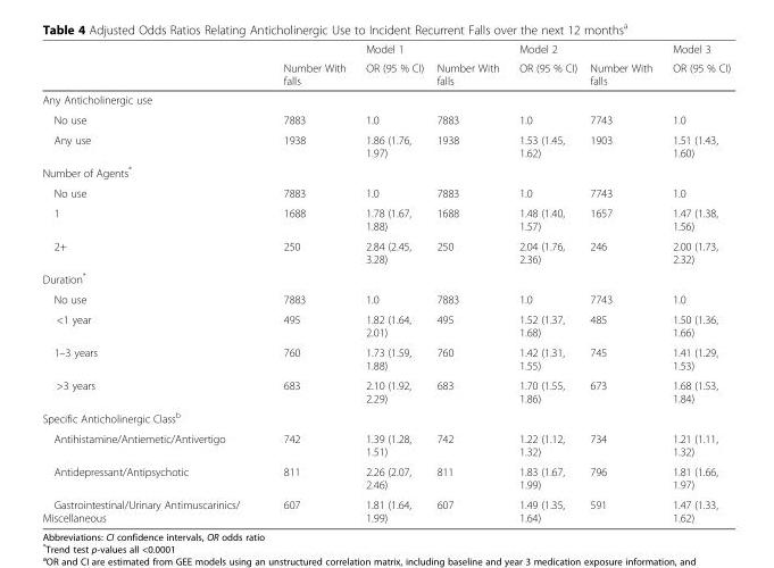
<table><thead><tr><td rowspan="2"></td><td rowspan="2">Number With falls</td><td rowspan="2">Model 1 OR (95 % CI)</td><td rowspan="2">Number With falls</td><td rowspan="2">Model 2 OR (95 % CI)</td><td rowspan="2">Number With falls</td><td rowspan="2">Model 3 OR (95 % CI)</td></tr><tr></tr></thead><tbody><tr><td colspan="7">Any Anticholinergic use</td></tr><tr><td>No use</td><td>7883</td><td>1.0</td><td>7883</td><td>1.0</td><td>7743</td><td>1.0</td></tr><tr><td>Any use</td><td>1938</td><td>1.86 (1.76, 1.97)</td><td>1938</td><td>1.53 (1.45, 1.62)</td><td>1903</td><td>1.51 (1.43, 1.60)</td></tr><tr><td colspan="7">Number of Agents*</td></tr><tr><td>No use</td><td>7883</td><td>1.0</td><td>7883</td><td>1.0</td><td>7743</td><td>1.0</td></tr><tr><td>1</td><td>1688</td><td>1.78 (1.67, 1.88)</td><td>1688</td><td>1.48 (1.40, 1.57)</td><td>1657</td><td>1.47 (1.38, 1.56)</td></tr><tr><td>2+</td><td>250</td><td>2.84 (2.45, 3.28)</td><td>250</td><td>2.04 (1.76, 2.36)</td><td>246</td><td>2.00 (1.73, 2.32)</td></tr><tr><td colspan="7">Duration*</td></tr><tr><td>No use</td><td>7883</td><td>1.0</td><td>7883</td><td>1.0</td><td>7743</td><td>1.0</td></tr><tr><td>&lt;1 year</td><td>495</td><td>1.82 (1.64, 2.01)</td><td>495</td><td>1.52 (1.37, 1.68)</td><td>485</td><td>1.50 (1.36, 1.66)</td></tr><tr><td>1–3 years</td><td>760</td><td>1.73 (1.59, 1.88)</td><td>760</td><td>1.42 (1.31, 1.55)</td><td>745</td><td>1.41 (1.29, 1.53)</td></tr><tr><td>&gt;3 years</td><td>683</td><td>2.10 (1.92, 2.29)</td><td>683</td><td>1.70 (1.55, 1.86)</td><td>673</td><td>1.68 (1.53, 1.84)</td></tr><tr><td colspan="7">Specific Anticholinergic Class<sup>b</sup></td></tr><tr><td>Antihistamine/Antiemetic/Antivertigo</td><td>742</td><td>1.39 (1.28, 1.51)</td><td>742</td><td>1.22 (1.12, 1.32)</td><td>734</td><td>1.21 (1.11, 1.32)</td></tr><tr><td>Antidepressant/Antipsychotic</td><td>811</td><td>2.26 (2.07, 2.46)</td><td>811</td><td>1.83 (1.67, 1.99)</td><td>796</td><td>1.81 (1.66, 1.97)</td></tr><tr><td>Gastrointestinal/Urinary Antimuscarinics/ Miscellaneous</td><td>607</td><td>1.81 (1.64, 1.99)</td><td>607</td><td>1.49 (1.35, 1.64)</td><td>591</td><td>1.47 (1.33, 1.62)</td></tr></tbody></table>